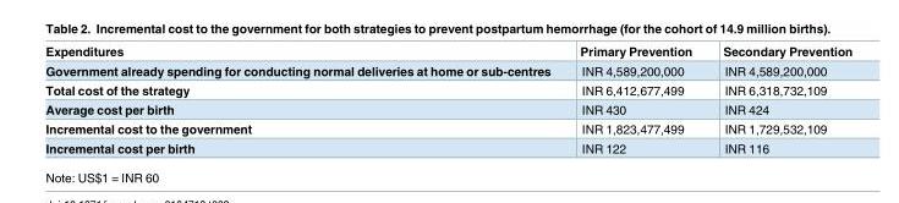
<table><thead><tr><td>Expenditures</td><td>Primary Prevention</td><td>Secondary Prevention</td></tr></thead><tbody><tr><td>Government already spending for conducting normal deliveries at home or sub-centres</td><td>INR 4,589,200,000</td><td>INR 4,589,200,000</td></tr><tr><td>Total cost of the strategy</td><td>INR 6,412,677,499</td><td>INR 6,318,732,109</td></tr><tr><td>Average cost per birth</td><td>INR 430</td><td>INR 424</td></tr><tr><td>Incremental cost to the government</td><td>INR 1,823,477,499</td><td>INR 1,729,532,109</td></tr><tr><td>Incremental cost per birth</td><td>INR 122</td><td>INR 116</td></tr></tbody></table>